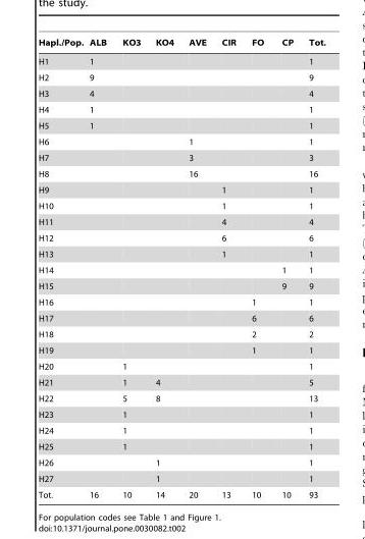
<table><thead><tr><td>Hapl./Pop.</td><td>ALB</td><td>KO3</td><td>KO4</td><td>AVE</td><td>CIR</td><td>FO</td><td>CP</td><td>Tot.</td></tr></thead><tbody><tr><td>H1</td><td>1</td><td></td><td></td><td></td><td></td><td></td><td></td><td>1</td></tr><tr><td>H2</td><td>9</td><td></td><td></td><td></td><td></td><td></td><td></td><td>9</td></tr><tr><td>H3</td><td>4</td><td></td><td></td><td></td><td></td><td></td><td></td><td>4</td></tr><tr><td>H4</td><td>1</td><td></td><td></td><td></td><td></td><td></td><td></td><td>1</td></tr><tr><td>H5</td><td>1</td><td></td><td></td><td></td><td></td><td></td><td></td><td>1</td></tr><tr><td>H6</td><td></td><td></td><td></td><td>1</td><td></td><td></td><td></td><td>1</td></tr><tr><td>H7</td><td></td><td></td><td></td><td>3</td><td></td><td></td><td></td><td>3</td></tr><tr><td>H8</td><td></td><td></td><td></td><td>16</td><td></td><td></td><td></td><td>16</td></tr><tr><td>H9</td><td></td><td></td><td></td><td></td><td>1</td><td></td><td></td><td>1</td></tr><tr><td>H10</td><td></td><td></td><td></td><td></td><td>1</td><td></td><td></td><td>1</td></tr><tr><td>H11</td><td></td><td></td><td></td><td></td><td>4</td><td></td><td></td><td>4</td></tr><tr><td>H12</td><td></td><td></td><td></td><td></td><td>6</td><td></td><td></td><td>6</td></tr><tr><td>H13</td><td></td><td></td><td></td><td></td><td>1</td><td></td><td></td><td>1</td></tr><tr><td>H14</td><td></td><td></td><td></td><td></td><td></td><td></td><td>1</td><td>1</td></tr><tr><td>H15</td><td></td><td></td><td></td><td></td><td></td><td></td><td>9</td><td>9</td></tr><tr><td>H16</td><td></td><td></td><td></td><td></td><td></td><td>1</td><td></td><td>1</td></tr><tr><td>H17</td><td></td><td></td><td></td><td></td><td></td><td>6</td><td></td><td>6</td></tr><tr><td>H18</td><td></td><td></td><td></td><td></td><td></td><td>2</td><td></td><td>2</td></tr><tr><td>H19</td><td></td><td></td><td></td><td></td><td></td><td>1</td><td></td><td>1</td></tr><tr><td>H20</td><td></td><td>1</td><td></td><td></td><td></td><td></td><td></td><td>1</td></tr><tr><td>H21</td><td></td><td>1</td><td>4</td><td></td><td></td><td></td><td></td><td>5</td></tr><tr><td>H22</td><td></td><td>5</td><td>8</td><td></td><td></td><td></td><td></td><td>13</td></tr><tr><td>H23</td><td></td><td>1</td><td></td><td></td><td></td><td></td><td></td><td>1</td></tr><tr><td>H24</td><td></td><td>1</td><td></td><td></td><td></td><td></td><td></td><td>1</td></tr><tr><td>H25</td><td></td><td>1</td><td></td><td></td><td></td><td></td><td></td><td>1</td></tr><tr><td>H26</td><td></td><td></td><td>1</td><td></td><td></td><td></td><td></td><td>1</td></tr><tr><td>H27</td><td></td><td></td><td>1</td><td></td><td></td><td></td><td></td><td>1</td></tr><tr><td>Tot.</td><td>16</td><td>10</td><td>14</td><td>20</td><td>13</td><td>10</td><td>10</td><td>93</td></tr></tbody></table>